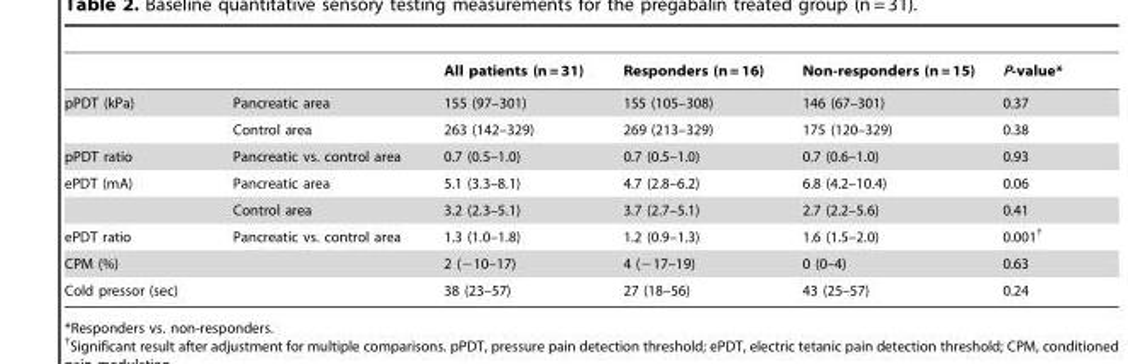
<table><thead><tr><td></td><td></td><td>All patients (n = 31)</td><td>Responders (n = 16)</td><td>Non-responders (n = 15)</td><td>P-value*</td></tr></thead><tbody><tr><td rowspan="2">pPDT (kPa)</td><td>Pancreatic area</td><td>155 (97–301)</td><td>155 (105–308)</td><td>146 (67–301)</td><td>0.37</td></tr><tr><td>Control area</td><td>263 (142–329)</td><td>269 (213–329)</td><td>175 (120–329)</td><td>0.38</td></tr><tr><td>pPDT ratio</td><td>Pancreatic vs. control area</td><td>0.7 (0.5–1.0)</td><td>0.7 (0.5–1.0)</td><td>0.7 (0.6–1.0)</td><td>0.93</td></tr><tr><td rowspan="2">ePDT (mA)</td><td>Pancreatic area</td><td>5.1 (3.3–8.1)</td><td>4.7 (2.8–6.2)</td><td>6.8 (4.2–10.4)</td><td>0.06</td></tr><tr><td>Control area</td><td>3.2 (2.3–5.1)</td><td>3.7 (2.7–5.1)</td><td>2.7 (2.2–5.6)</td><td>0.41</td></tr><tr><td>ePDT ratio</td><td>Pancreatic vs. control area</td><td>1.3 (1.0–1.8)</td><td>1.2 (0.9–1.3)</td><td>1.6 (1.5–2.0)</td><td>0.001†</td></tr><tr><td>CPM (%)</td><td></td><td>2 (−10–17)</td><td>4 (−17–19)</td><td>0 (0–4)</td><td>0.63</td></tr><tr><td>Cold pressor (sec)</td><td></td><td>38 (23–57)</td><td>27 (18–56)</td><td>43 (25–57)</td><td>0.24</td></tr></tbody></table>